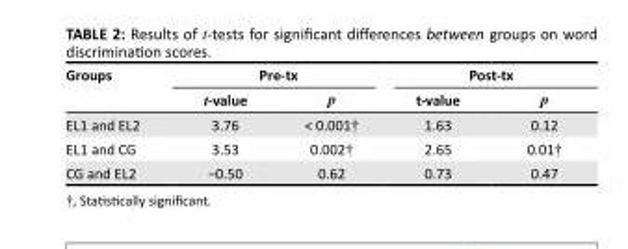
<table><thead><tr><td rowspan="2">Groups</td><td colspan="2">Pre-tx</td><td colspan="2">Post-tx</td></tr><tr><td>t-value</td><td>p</td><td>t-value</td><td>p</td></tr></thead><tbody><tr><td>EL1 and EL2</td><td>3.76</td><td>&lt; 0.001†</td><td>1.63</td><td>0.12</td></tr><tr><td>EL1 and CG</td><td>3.53</td><td>0.002†</td><td>2.65</td><td>0.01†</td></tr><tr><td>CG and EL2</td><td>−0.50</td><td>0.62</td><td>0.73</td><td>0.47</td></tr></tbody></table>